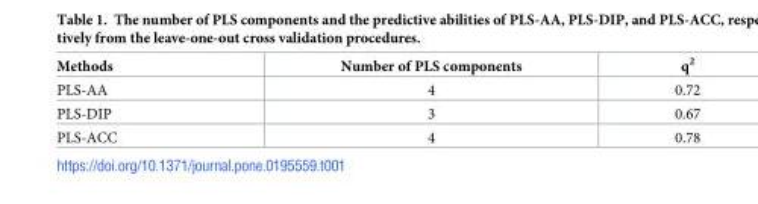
<table><thead><tr><td>Methods</td><td>Number of PLS components</td><td>q<sup>2</sup></td></tr></thead><tbody><tr><td>PLS-AA</td><td>4</td><td>0.72</td></tr><tr><td>PLS-DIP</td><td>3</td><td>0.67</td></tr><tr><td>PLS-ACC</td><td>4</td><td>0.78</td></tr></tbody></table>